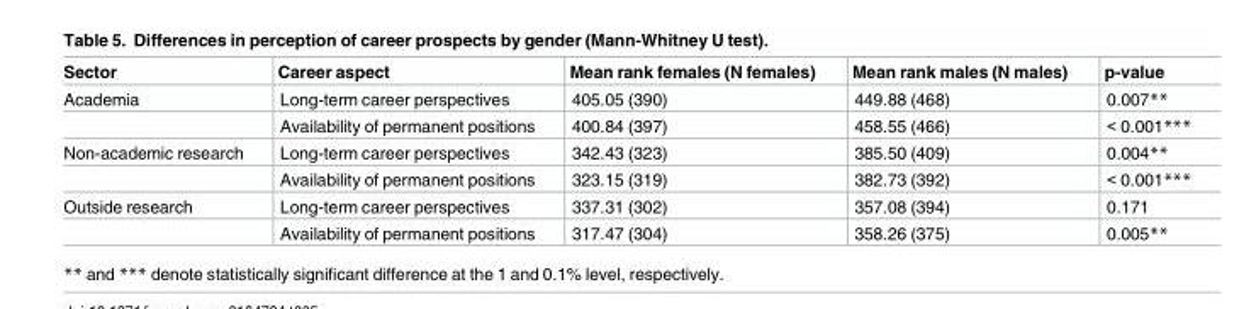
<table><thead><tr><td>Sector</td><td>Career aspect</td><td>Mean rank females (N females)</td><td>Mean rank males (N males)</td><td>p-value</td></tr></thead><tbody><tr><td rowspan="2">Academia</td><td>Long-term career perspectives</td><td>405.05 (390)</td><td>449.88 (468)</td><td>0.007**</td></tr><tr><td>Availability of permanent positions</td><td>400.84 (397)</td><td>458.55 (466)</td><td>&lt; 0.001***</td></tr><tr><td rowspan="2">Non-academic research</td><td>Long-term career perspectives</td><td>342.43 (323)</td><td>385.50 (409)</td><td>0.004**</td></tr><tr><td>Availability of permanent positions</td><td>323.15 (319)</td><td>382.73 (392)</td><td>&lt; 0.001***</td></tr><tr><td rowspan="2">Outside research</td><td>Long-term career perspectives</td><td>337.31 (302)</td><td>357.08 (394)</td><td>0.171</td></tr><tr><td>Availability of permanent positions</td><td>317.47 (304)</td><td>358.26 (375)</td><td>0.005**</td></tr></tbody></table>